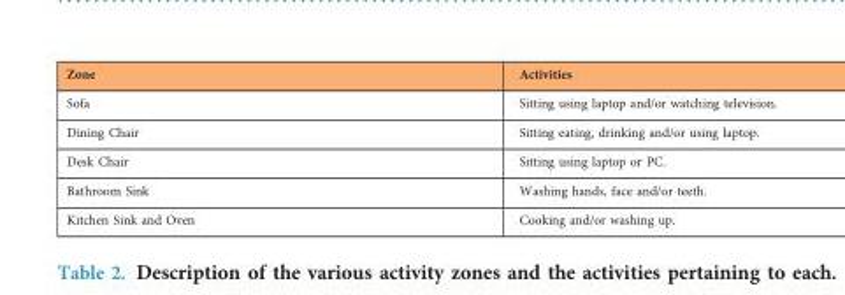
<table><thead><tr><td>Zone</td><td>Activities</td></tr></thead><tbody><tr><td>Sofa</td><td>Sitting using laptop and/or watching television.</td></tr><tr><td>Dining Chair</td><td>Sitting eating, drinking and/or using laptop.</td></tr><tr><td>Desk Chair</td><td>Sitting using laptop or PC.</td></tr><tr><td>Bathroom Sink</td><td>Washing hands, face and/or teeth.</td></tr><tr><td>Kitchen Sink and Oven</td><td>Cooking and/or washing up.</td></tr></tbody></table>